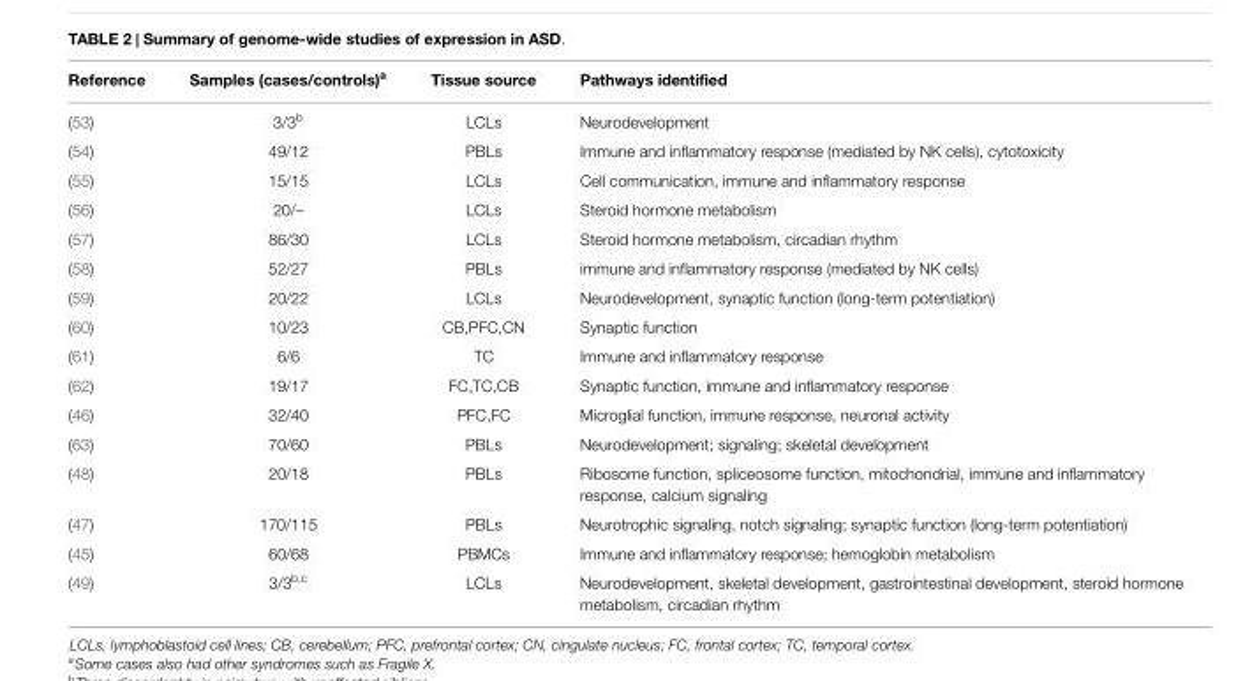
<table><thead><tr><td>Reference</td><td>Samples (cases/controls)<sup>a</sup></td><td>Tissue source</td><td>Pathways identified</td></tr></thead><tbody><tr><td>(53)</td><td>3/3<sup>b</sup></td><td>LCLs</td><td>Neurodevelopment</td></tr><tr><td>(54)</td><td>49/12</td><td>PBLs</td><td>Immune and inflammatory response (mediated by NK cells), cytotoxicity</td></tr><tr><td>(55)</td><td>15/15</td><td>LCLs</td><td>Cell communication, immune and inflammatory response</td></tr><tr><td>(56)</td><td>20/–</td><td>LCLs</td><td>Steroid hormone metabolism</td></tr><tr><td>(57)</td><td>86/30</td><td>LCLs</td><td>Steroid hormone metabolism, circadian rhythm</td></tr><tr><td>(58)</td><td>52/27</td><td>PBLs</td><td>immune and inflammatory response (mediated by NK cells)</td></tr><tr><td>(59)</td><td>20/22</td><td>LCLs</td><td>Neurodevelopment, synaptic function (long-term potentiation)</td></tr><tr><td>(60)</td><td>10/23</td><td>CB,PFC,CN</td><td>Synaptic function</td></tr><tr><td>(61)</td><td>6/6</td><td>TC</td><td>Immune and inflammatory response</td></tr><tr><td>(62)</td><td>19/17</td><td>FC,TC,CB</td><td>Synaptic function, immune and inflammatory response</td></tr><tr><td>(46)</td><td>32/40</td><td>PFC,FC</td><td>Microglial function, immune response, neuronal activity</td></tr><tr><td>(63)</td><td>70/60</td><td>PBLs</td><td>Neurodevelopment; signaling; skeletal development</td></tr><tr><td>(48)</td><td>20/18</td><td>PBLs</td><td>Ribosome function, spliceosome function, mitochondrial, immune and inflammatory response, calcium signaling</td></tr><tr><td>(47)</td><td>170/115</td><td>PBLs</td><td>Neurotrophic signaling, notch signaling; synaptic function (long-term potentiation)</td></tr><tr><td>(45)</td><td>60/68</td><td>PBMCs</td><td>Immune and inflammatory response; hemoglobin metabolism</td></tr><tr><td>(49)</td><td>3/3<sup>b,c</sup></td><td>LCLs</td><td>Neurodevelopment, skeletal development, gastrointestinal development, steroid hormone metabolism, circadian rhythm</td></tr></tbody></table>